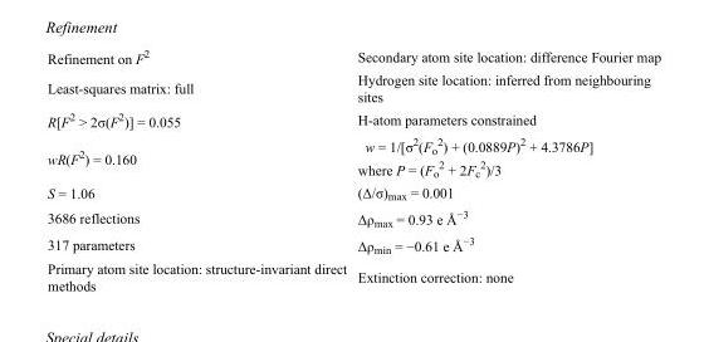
<table><tbody><tr><td>Refinement on F<sup>2</sup></td><td>Secondary atom site location: difference Fourier map</td></tr><tr><td>Least-squares matrix: full</td><td>Hydrogen site location: inferred from neighbouring sites</td></tr><tr><td>R[F<sup>2</sup> &gt; 2σ(F<sup>2</sup>)] = 0.055</td><td>H-atom parameters constrained</td></tr><tr><td>wR(F<sup>2</sup>) = 0.160</td><td>w = 1/[σ<sup>2</sup>(F<sub>o</sub> <sup>2</sup>) + (0.0889P)<sup>2</sup> + 4.3786P] where P = (F<sub>o</sub> <sup>2</sup> + 2F<sub>c</sub> <sup>2</sup>)/3</td></tr><tr><td>S = 1.06</td><td>(Δ/σ)<sub>max</sub> = 0.001</td></tr><tr><td>3686 reflections</td><td>Δρ<sub>max</sub> = 0.93 e Å<sup>−3</sup></td></tr><tr><td>317 parameters</td><td>Δρ<sub>min</sub> = −0.61 e Å<sup>−3</sup></td></tr><tr><td>Primary atom site location: structure-invariant direct methods</td><td>Extinction correction: none</td></tr></tbody></table>